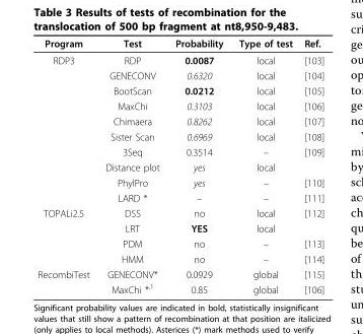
<table><thead><tr><td>Program</td><td>Test</td><td>Probability</td><td>Type of test</td><td>Ref.</td></tr></thead><tbody><tr><td rowspan="10">RDP3</td><td>RDP</td><td>0.0087</td><td>local</td><td>[103]</td></tr><tr><td>GENECONV</td><td>0.6320</td><td>local</td><td>[104]</td></tr><tr><td>BootScan</td><td>0.0212</td><td>local</td><td>[105]</td></tr><tr><td>MaxChi</td><td>0.3103</td><td>local</td><td>[106]</td></tr><tr><td>Chimaera</td><td>0.8262</td><td>local</td><td>[107]</td></tr><tr><td>Sister Scan</td><td>0.6969</td><td>local</td><td>[108]</td></tr><tr><td>3Seq</td><td>0.3514</td><td>–</td><td>[109]</td></tr><tr><td>Distance plot</td><td>yes</td><td>local</td><td></td></tr><tr><td>PhylPro</td><td>yes</td><td>–</td><td>[110]</td></tr><tr><td>LARD *</td><td>–</td><td>–</td><td>[111]</td></tr><tr><td rowspan="4">TOPALi2.5</td><td>DSS</td><td>no</td><td>local</td><td>[112]</td></tr><tr><td>LRT</td><td>YES</td><td>local</td><td></td></tr><tr><td>PDM</td><td>no</td><td>–</td><td>[113]</td></tr><tr><td>HMM</td><td>no</td><td>–</td><td>[114]</td></tr><tr><td rowspan="2">RecombiTest</td><td>GENECONV*</td><td>0.0929</td><td>global</td><td>[115]</td></tr><tr><td>MaxChi *<sup>,1</sup></td><td>0.85</td><td>global</td><td>[106]</td></tr></tbody></table>